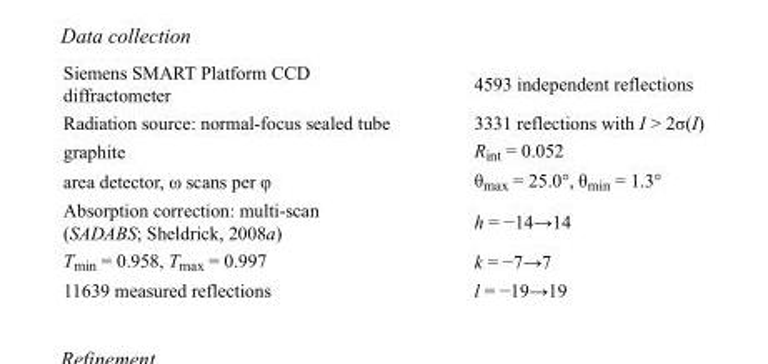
<table><tbody><tr><td>Siemens SMART Platform CCD diffractometer</td><td>4593 independent reflections</td></tr><tr><td>Radiation source: normal-focus sealed tube</td><td>3331 reflections with I &gt; 2σ(I)</td></tr><tr><td>graphite</td><td>R<sub>int</sub> = 0.052</td></tr><tr><td>area detector, ω scans per φ</td><td>θ<sub>max</sub> = 25.0°, θ<sub>min</sub> = 1.3°</td></tr><tr><td>Absorption correction: multi-scan (SADABS; Sheldrick, 2008a)</td><td>h = −14→14</td></tr><tr><td>T<sub>min</sub> = 0.958, T<sub>max</sub> = 0.997</td><td>k = −7→7</td></tr><tr><td>11639 measured reflections</td><td>l = −19→19</td></tr></tbody></table>